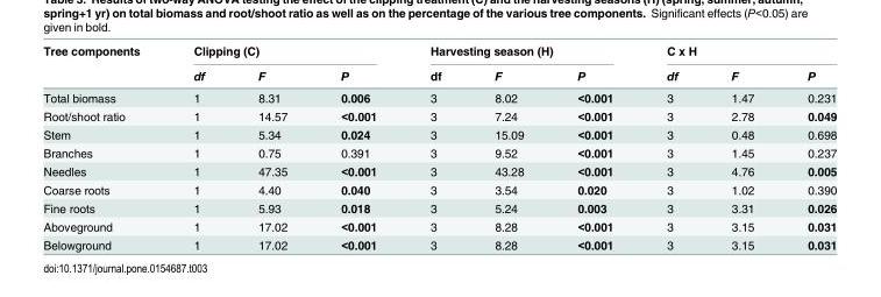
<table><thead><tr><td rowspan="2">Tree components</td><td colspan="3">Clipping (C)</td><td colspan="3">Harvesting season (H)</td><td colspan="3">C x H</td></tr><tr><td>df</td><td>F</td><td>P</td><td>df</td><td>F</td><td>P</td><td>df</td><td>F</td><td>P</td></tr></thead><tbody><tr><td>Total biomass</td><td>1</td><td>8.31</td><td>0.006</td><td>3</td><td>8.02</td><td>&lt;0.001</td><td>3</td><td>1.47</td><td>0.231</td></tr><tr><td>Root/shoot ratio</td><td>1</td><td>14.57</td><td>&lt;0.001</td><td>3</td><td>7.24</td><td>&lt;0.001</td><td>3</td><td>2.78</td><td>0.049</td></tr><tr><td>Stem</td><td>1</td><td>5.34</td><td>0.024</td><td>3</td><td>15.09</td><td>&lt;0.001</td><td>3</td><td>0.48</td><td>0.698</td></tr><tr><td>Branches</td><td>1</td><td>0.75</td><td>0.391</td><td>3</td><td>9.52</td><td>&lt;0.001</td><td>3</td><td>1.45</td><td>0.237</td></tr><tr><td>Needles</td><td>1</td><td>47.35</td><td>&lt;0.001</td><td>3</td><td>43.28</td><td>&lt;0.001</td><td>3</td><td>4.76</td><td>0.005</td></tr><tr><td>Coarse roots</td><td>1</td><td>4.40</td><td>0.040</td><td>3</td><td>3.54</td><td>0.020</td><td>3</td><td>1.02</td><td>0.390</td></tr><tr><td>Fine roots</td><td>1</td><td>5.93</td><td>0.018</td><td>3</td><td>5.24</td><td>0.003</td><td>3</td><td>3.31</td><td>0.026</td></tr><tr><td>Aboveground</td><td>1</td><td>17.02</td><td>&lt;0.001</td><td>3</td><td>8.28</td><td>&lt;0.001</td><td>3</td><td>3.15</td><td>0.031</td></tr><tr><td>Belowground</td><td>1</td><td>17.02</td><td>&lt;0.001</td><td>3</td><td>8.28</td><td>&lt;0.001</td><td>3</td><td>3.15</td><td>0.031</td></tr></tbody></table>